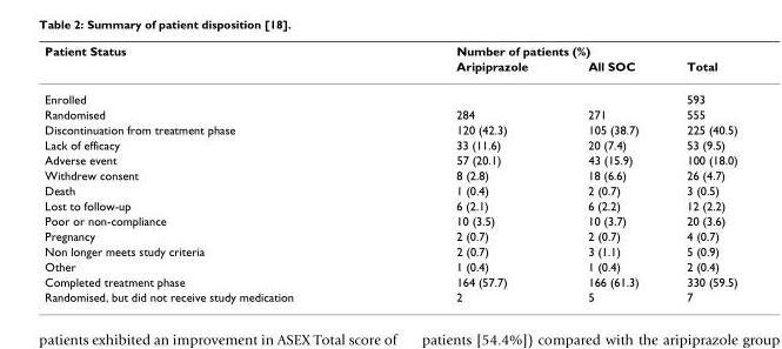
<table><thead><tr><td rowspan="2">Patient Status</td><td colspan="3">Number of patients (%)</td></tr><tr><td>Aripiprazole</td><td>All SOC</td><td>Total</td></tr></thead><tbody><tr><td>Enrolled</td><td></td><td></td><td>593</td></tr><tr><td>Randomised</td><td>284</td><td>271</td><td>555</td></tr><tr><td>Discontinuation from treatment phase</td><td>120 (42.3)</td><td>105 (38.7)</td><td>225 (40.5)</td></tr><tr><td>Lack of efficacy</td><td>33 (11.6)</td><td>20 (7.4)</td><td>53 (9.5)</td></tr><tr><td>Adverse event</td><td>57 (20.1)</td><td>43 (15.9)</td><td>100 (18.0)</td></tr><tr><td>Withdrew consent</td><td>8 (2.8)</td><td>18 (6.6)</td><td>26 (4.7)</td></tr><tr><td>Death</td><td>1 (0.4)</td><td>2 (0.7)</td><td>3 (0.5)</td></tr><tr><td>Lost to follow-up</td><td>6 (2.1)</td><td>6 (2.2)</td><td>12 (2.2)</td></tr><tr><td>Poor or non-compliance</td><td>10 (3.5)</td><td>10 (3.7)</td><td>20 (3.6)</td></tr><tr><td>Pregnancy</td><td>2 (0.7)</td><td>2 (0.7)</td><td>4 (0.7)</td></tr><tr><td>Non longer meets study criteria</td><td>2 (0.7)</td><td>3 (1.1)</td><td>5 (0.9)</td></tr><tr><td>Other</td><td>1 (0.4)</td><td>1 (0.4)</td><td>2 (0.4)</td></tr><tr><td>Completed treatment phase</td><td>164 (57.7)</td><td>166 (61.3)</td><td>330 (59.5)</td></tr><tr><td>Randomised, but did not receive study medication</td><td>2</td><td>5</td><td>7</td></tr></tbody></table>